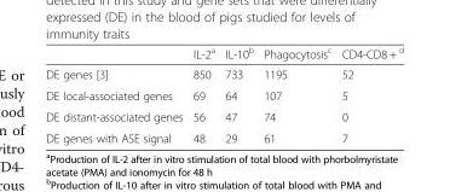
<table><thead><tr><td></td><td>IL-2<sup>a</sup></td><td>IL-10<sup>b</sup></td><td>Phagocytosis<sup>c</sup></td><td>CD4-CD8 + <sup>d</sup></td></tr></thead><tbody><tr><td>DE genes [3]</td><td>850</td><td>733</td><td>1195</td><td>52</td></tr><tr><td>DE local-associated genes</td><td>69</td><td>64</td><td>107</td><td>5</td></tr><tr><td>DE distant-associated genes</td><td>56</td><td>47</td><td>74</td><td>0</td></tr><tr><td>DE genes with ASE signal</td><td>48</td><td>29</td><td>61</td><td>7</td></tr></tbody></table>